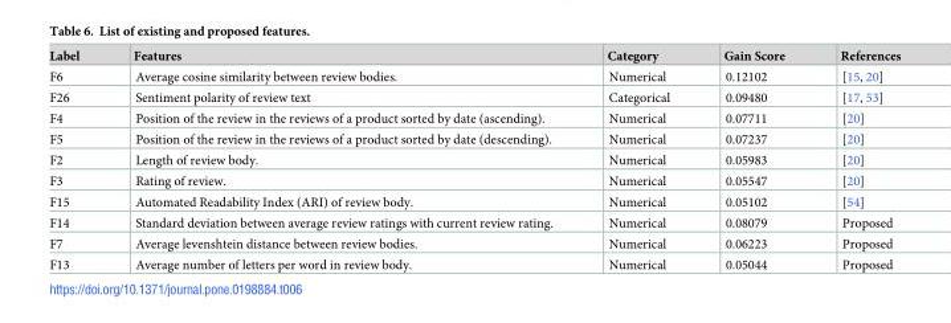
<table><thead><tr><td>Label</td><td>Features</td><td>Category</td><td>Gain Score</td><td>References</td></tr></thead><tbody><tr><td>F6</td><td>Average cosine similarity between review bodies.</td><td>Numerical</td><td>0.12102</td><td>[15, 20]</td></tr><tr><td>F26</td><td>Sentiment polarity of review text</td><td>Categorical</td><td>0.09480</td><td>[17, 53]</td></tr><tr><td>F4</td><td>Position of the review in the reviews of a product sorted by date (ascending).</td><td>Numerical</td><td>0.07711</td><td>[20]</td></tr><tr><td>F5</td><td>Position of the review in the reviews of a product sorted by date (descending).</td><td>Numerical</td><td>0.07237</td><td>[20]</td></tr><tr><td>F2</td><td>Length of review body.</td><td>Numerical</td><td>0.05983</td><td>[20]</td></tr><tr><td>F3</td><td>Rating of review.</td><td>Numerical</td><td>0.05547</td><td>[20]</td></tr><tr><td>F15</td><td>Automated Readability Index (ARI) of review body.</td><td>Numerical</td><td>0.05102</td><td>[54]</td></tr><tr><td>F14</td><td>Standard deviation between average review ratings with current review rating.</td><td>Numerical</td><td>0.08079</td><td>Proposed</td></tr><tr><td>F7</td><td>Average levenshtein distance between review bodies.</td><td>Numerical</td><td>0.06223</td><td>Proposed</td></tr><tr><td>F13</td><td>Average number of letters per word in review body.</td><td>Numerical</td><td>0.05044</td><td>Proposed</td></tr></tbody></table>